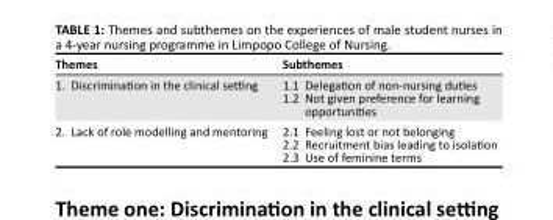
<table><thead><tr><td>Themes</td><td>Subthemes</td></tr></thead><tbody><tr><td>1. Discrimination in the clinical setting</td><td>1.1 Delegation of non-nursing duties 1.2 Not given preference for learning opportunities</td></tr><tr><td>2. Lack of role modelling and mentoring</td><td>2.1 Feeling lost or not belonging 2.2 Recruitment bias leading to isolation 2.3 Use of feminine terms</td></tr></tbody></table>